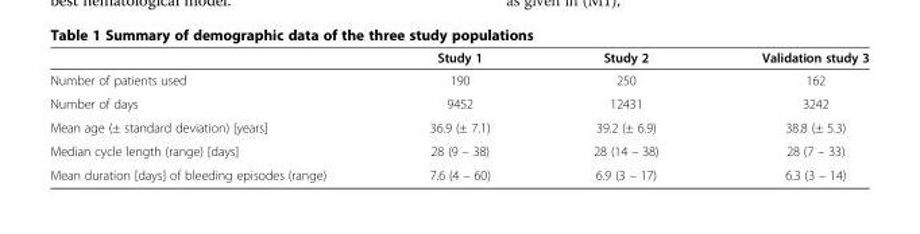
<table><thead><tr><td></td><td>Study 1</td><td>Study 2</td><td>Validation study 3</td></tr></thead><tbody><tr><td>Number of patients used</td><td>190</td><td>250</td><td>162</td></tr><tr><td>Number of days</td><td>9452</td><td>12431</td><td>3242</td></tr><tr><td>Mean age (± standard deviation) [years]</td><td>36.9 (± 7.1)</td><td>39.2 (± 6.9)</td><td>38.8 (± 5.3)</td></tr><tr><td>Median cycle length (range) [days]</td><td>28 (9 – 38)</td><td>28 (14 – 38)</td><td>28 (7 – 33)</td></tr><tr><td>Mean duration [days] of bleeding episodes (range)</td><td>7.6 (4 – 60)</td><td>6.9 (3 – 17)</td><td>6.3 (3 – 14)</td></tr></tbody></table>